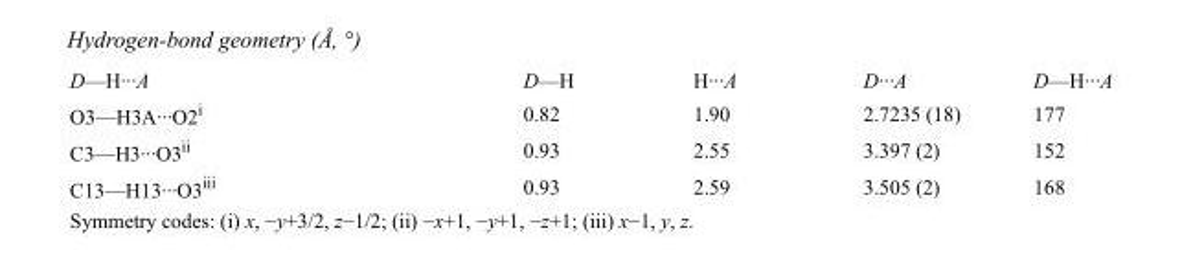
<table><tbody><tr><td>D—H···A</td><td>D—H</td><td>H···A</td><td>D···A</td><td>D—H···A</td></tr><tr><td>O3—H3A···O2<sup>i</sup></td><td>0.82</td><td>1.90</td><td>2.7235 (18)</td><td>177</td></tr><tr><td>C3—H3···O3<sup>ii</sup></td><td>0.93</td><td>2.55</td><td>3.397 (2)</td><td>152</td></tr><tr><td>C13—H13···O3<sup>iii</sup></td><td>0.93</td><td>2.59</td><td>3.505 (2)</td><td>168</td></tr></tbody></table>